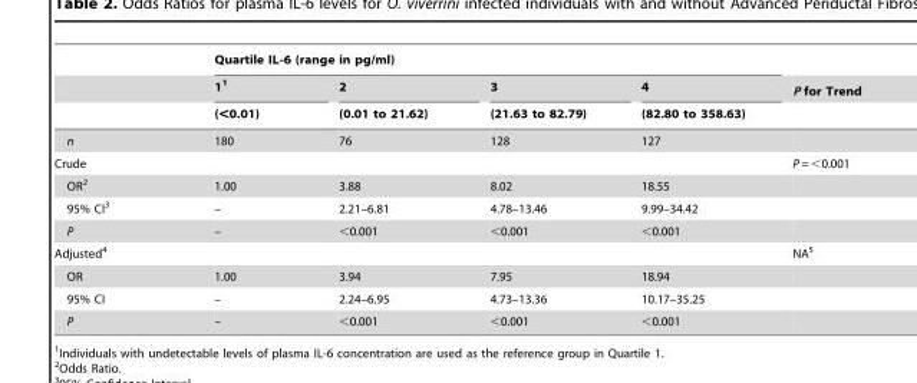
<table><thead><tr><td rowspan="3"></td><td colspan="4">Quartile IL-6 (range in pg/ml)</td><td rowspan="3">P for Trend</td></tr><tr><td rowspan="2">1<sup>1</sup> (&lt;0.01)</td><td rowspan="2">2 (0.01 to 21.62)</td><td rowspan="2">3 (21.63 to 82.79)</td><td rowspan="2">4 (82.80 to 358.63)</td></tr><tr></tr></thead><tbody><tr><td>n</td><td>180</td><td>76</td><td>128</td><td>127</td><td></td></tr><tr><td>Crude</td><td></td><td></td><td></td><td></td><td>P = &lt;0.001</td></tr><tr><td>OR<sup>2</sup></td><td>1.00</td><td>3.88</td><td>8.02</td><td>18.55</td><td></td></tr><tr><td>95% CI<sup>3</sup></td><td>–</td><td>2.21–6.81</td><td>4.78–13.46</td><td>9.99–34.42</td><td></td></tr><tr><td>P</td><td>–</td><td>&lt;0.001</td><td>&lt;0.001</td><td>&lt;0.001</td><td></td></tr><tr><td>Adjusted<sup>4</sup></td><td></td><td></td><td></td><td></td><td>NA<sup>5</sup></td></tr><tr><td>OR</td><td>1.00</td><td>3.94</td><td>7.95</td><td>18.94</td><td></td></tr><tr><td>95% CI</td><td>–</td><td>2.24–6.95</td><td>4.73–13.36</td><td>10.17–35.25</td><td></td></tr><tr><td>P</td><td>–</td><td>&lt;0.001</td><td>&lt;0.001</td><td>&lt;0.001</td><td></td></tr></tbody></table>